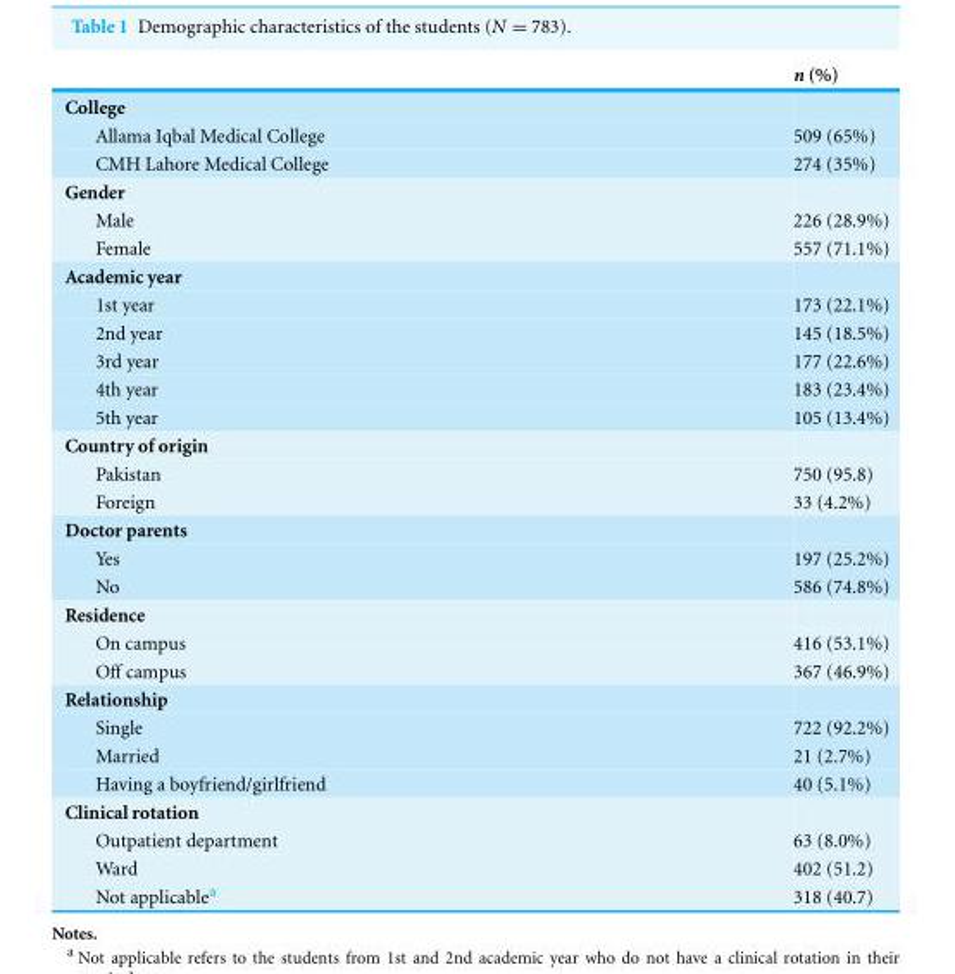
<table><thead><tr><td></td><td>n (%)</td></tr></thead><tbody><tr><td colspan="2">College</td></tr><tr><td>Allama Iqbal Medical College</td><td>509 (65%)</td></tr><tr><td>CMH Lahore Medical College</td><td>274 (35%)</td></tr><tr><td colspan="2">Gender</td></tr><tr><td>Male</td><td>226 (28.9%)</td></tr><tr><td>Female</td><td>557 (71.1%)</td></tr><tr><td colspan="2">Academic year</td></tr><tr><td>1st year</td><td>173 (22.1%)</td></tr><tr><td>2nd year</td><td>145 (18.5%)</td></tr><tr><td>3rd year</td><td>177 (22.6%)</td></tr><tr><td>4th year</td><td>183 (23.4%)</td></tr><tr><td>5th year</td><td>105 (13.4%)</td></tr><tr><td colspan="2">Country of origin</td></tr><tr><td>Pakistan</td><td>750 (95.8)</td></tr><tr><td>Foreign</td><td>33 (4.2%)</td></tr><tr><td colspan="2">Doctor parents</td></tr><tr><td>Yes</td><td>197 (25.2%)</td></tr><tr><td>No</td><td>586 (74.8%)</td></tr><tr><td colspan="2">Residence</td></tr><tr><td>On campus</td><td>416 (53.1%)</td></tr><tr><td>Off campus</td><td>367 (46.9%)</td></tr><tr><td colspan="2">Relationship</td></tr><tr><td>Single</td><td>722 (92.2%)</td></tr><tr><td>Married</td><td>21 (2.7%)</td></tr><tr><td>Having a boyfriend/girlfriend</td><td>40 (5.1%)</td></tr><tr><td colspan="2">Clinical rotation</td></tr><tr><td>Outpatient department</td><td>63 (8.0%)</td></tr><tr><td>Ward</td><td>402 (51.2)</td></tr><tr><td>Not applicable<sup>a</sup></td><td>318 (40.7)</td></tr></tbody></table>